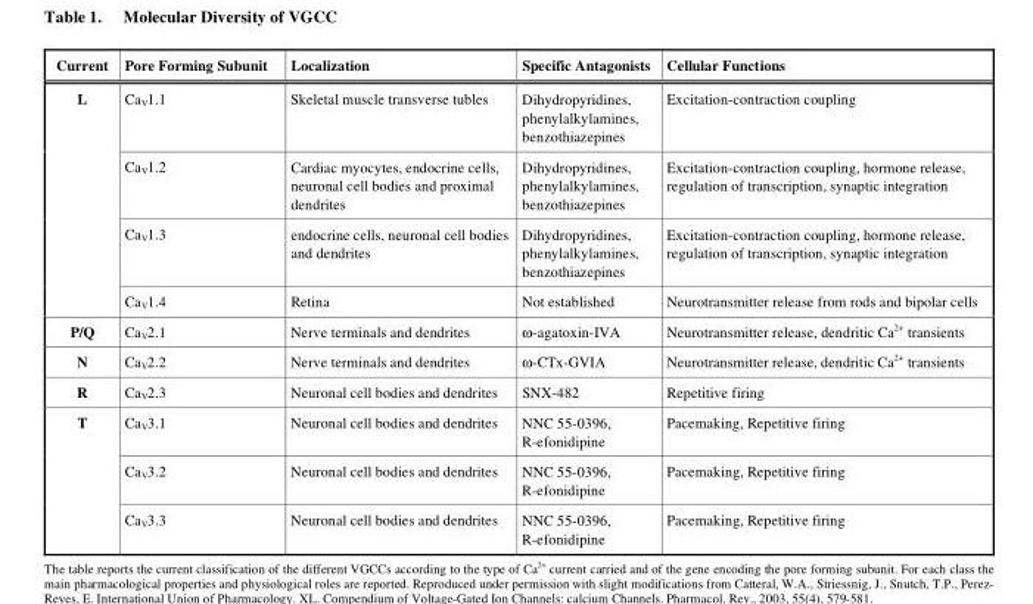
<table><thead><tr><td>Current</td><td>Pore Forming Subunit</td><td>Localization</td><td>Specific Antagonists</td><td>Cellular Functions</td></tr></thead><tbody><tr><td rowspan="4">L</td><td>Ca<sub>V</sub>1.1</td><td>Skeletal muscle transverse tubles</td><td>Dihydropyridines, phenylalkylamines, benzothiazepines</td><td>Excitation-contraction coupling</td></tr><tr><td>Ca<sub>V</sub>1.2</td><td>Cardiac myocytes, endocrine cells, neuronal cell bodies and proximal dendrites</td><td>Dihydropyridines, phenylalkylamines, benzothiazepines</td><td>Excitation-contraction coupling, hormone release, regulation of transcription, synaptic integration</td></tr><tr><td>Ca<sub>V</sub>1.3</td><td>endocrine cells, neuronal cell bodies and dendrites</td><td>Dihydropyridines, phenylalkylamines, benzothiazepines</td><td>Excitation-contraction coupling, hormone release, regulation of transcription, synaptic integration</td></tr><tr><td>Ca<sub>V</sub>1.4</td><td>Retina</td><td>Not established</td><td>Neurotransmitter release from rods and bipolar cells</td></tr><tr><td>P/Q</td><td>Ca<sub>V</sub>2.1</td><td>Nerve terminals and dendrites</td><td>ω-agatoxin-IVA</td><td>Neurotransmitter release, dendritic Ca<sup>2+</sup> transients</td></tr><tr><td>N</td><td>Ca<sub>V</sub>2.2</td><td>Nerve terminals and dendrites</td><td>ω-CTx-GVIA</td><td>Neurotransmitter release, dendritic Ca<sup>2+</sup> transients</td></tr><tr><td>R</td><td>Ca<sub>V</sub>2.3</td><td>Neuronal cell bodies and dendrites</td><td>SNX-482</td><td>Repetitive firing</td></tr><tr><td rowspan="3">T</td><td>Ca<sub>V</sub>3.1</td><td>Neuronal cell bodies and dendrites</td><td>NNC 55-0396, R-efonidipine</td><td>Pacemaking, Repetitive firing</td></tr><tr><td>Ca<sub>V</sub>3.2</td><td>Neuronal cell bodies and dendrites</td><td>NNC 55-0396, R-efonidipine</td><td>Pacemaking, Repetitive firing</td></tr><tr><td>Ca<sub>V</sub>3.3</td><td>Neuronal cell bodies and dendrites</td><td>NNC 55-0396, R-efonidipine</td><td>Pacemaking, Repetitive firing</td></tr></tbody></table>